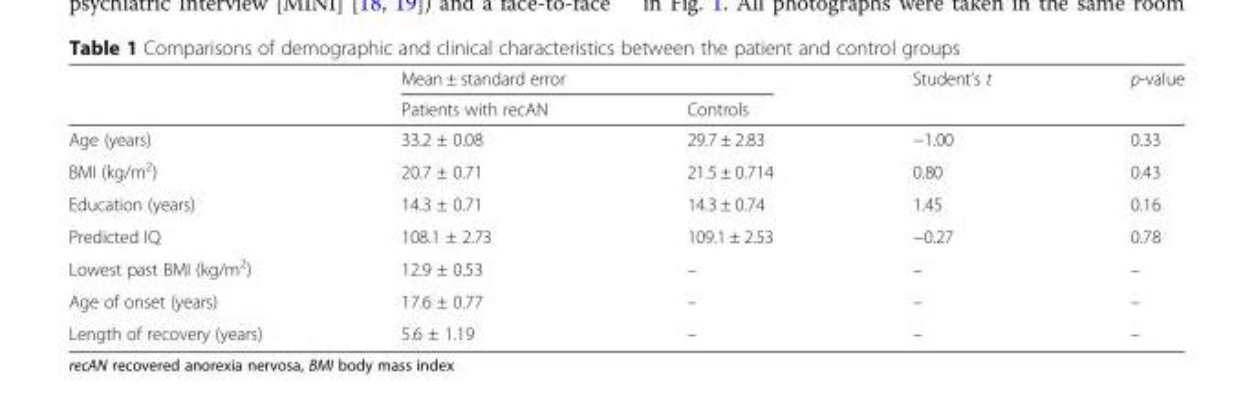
<table><thead><tr><td rowspan="2"></td><td colspan="2">Mean ± standard error</td><td rowspan="2">Student’s t</td><td rowspan="2">p-value</td></tr><tr><td>Patients with recAN</td><td>Controls</td></tr></thead><tbody><tr><td>Age (years)</td><td>33.2 ± 0.08</td><td>29.7 ± 2.83</td><td>−1.00</td><td>0.33</td></tr><tr><td>BMI (kg/m<sup>2</sup>)</td><td>20.7 ± 0.71</td><td>21.5 ± 0.714</td><td>0.80</td><td>0.43</td></tr><tr><td>Education (years)</td><td>14.3 ± 0.71</td><td>14.3 ± 0.74</td><td>1.45</td><td>0.16</td></tr><tr><td>Predicted IQ</td><td>108.1 ± 2.73</td><td>109.1 ± 2.53</td><td>−0.27</td><td>0.78</td></tr><tr><td>Lowest past BMI (kg/m<sup>2</sup>)</td><td>12.9 ± 0.53</td><td>–</td><td>–</td><td>–</td></tr><tr><td>Age of onset (years)</td><td>17.6 ± 0.77</td><td>–</td><td>–</td><td>–</td></tr><tr><td>Length of recovery (years)</td><td>5.6 ± 1.19</td><td>–</td><td>–</td><td>–</td></tr></tbody></table>